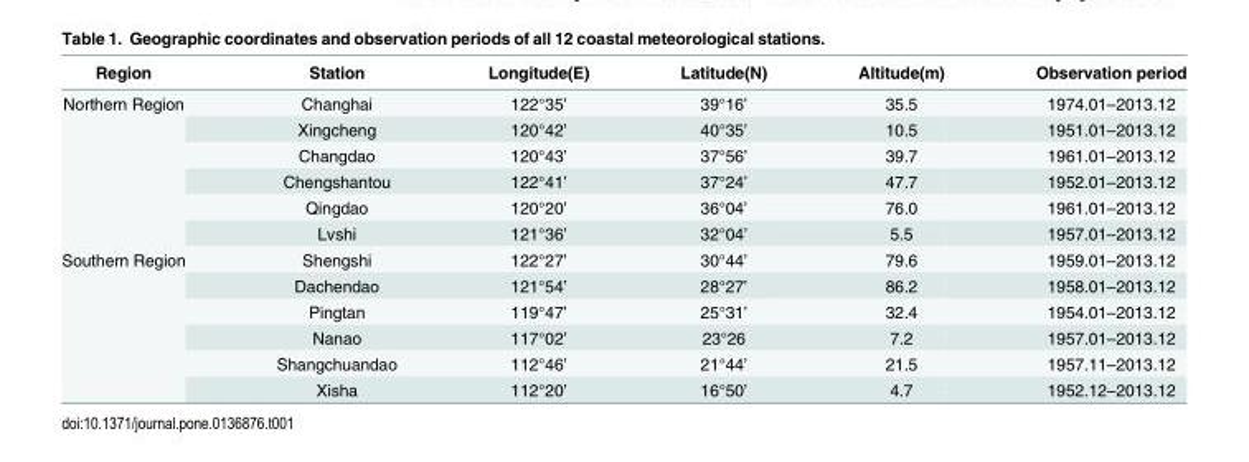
<table><thead><tr><td>Region</td><td>Station</td><td>Longitude(E)</td><td>Latitude(N)</td><td>Altitude(m)</td><td>Observation period</td></tr></thead><tbody><tr><td rowspan="6">Northern Region</td><td>Changhai</td><td>122°35’</td><td>39°16’</td><td>35.5</td><td>1974.01–2013.12</td></tr><tr><td>Xingcheng</td><td>120°42’</td><td>40°35’</td><td>10.5</td><td>1951.01–2013.12</td></tr><tr><td>Changdao</td><td>120°43’</td><td>37°56’</td><td>39.7</td><td>1961.01–2013.12</td></tr><tr><td>Chengshantou</td><td>122°41’</td><td>37°24’</td><td>47.7</td><td>1952.01–2013.12</td></tr><tr><td>Qingdao</td><td>120°20’</td><td>36°04’</td><td>76.0</td><td>1961.01–2013.12</td></tr><tr><td>Lvshi</td><td>121°36’</td><td>32°04’</td><td>5.5</td><td>1957.01–2013.12</td></tr><tr><td rowspan="6">Southern Region</td><td>Shengshi</td><td>122°27’</td><td>30°44’</td><td>79.6</td><td>1959.01–2013.12</td></tr><tr><td>Dachendao</td><td>121°54’</td><td>28°27’</td><td>86.2</td><td>1958.01–2013.12</td></tr><tr><td>Pingtan</td><td>119°47’</td><td>25°31’</td><td>32.4</td><td>1954.01–2013.12</td></tr><tr><td>Nanao</td><td>117°02’</td><td>23°26</td><td>7.2</td><td>1957.01–2013.12</td></tr><tr><td>Shangchuandao</td><td>112°46’</td><td>21°44’</td><td>21.5</td><td>1957.11–2013.12</td></tr><tr><td>Xisha</td><td>112°20’</td><td>16°50’</td><td>4.7</td><td>1952.12–2013.12</td></tr></tbody></table>